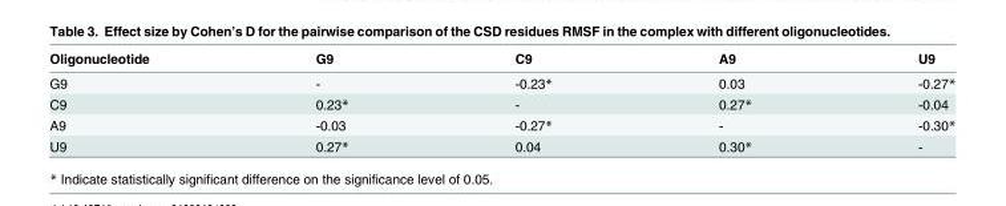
<table><thead><tr><td>Oligonucleotide</td><td>G9</td><td>C9</td><td>A9</td><td>U9</td></tr></thead><tbody><tr><td>G9</td><td>-</td><td>-0.23*</td><td>0.03</td><td>-0.27*</td></tr><tr><td>C9</td><td>0.23*</td><td>-</td><td>0.27*</td><td>-0.04</td></tr><tr><td>A9</td><td>-0.03</td><td>-0.27*</td><td>-</td><td>-0.30*</td></tr><tr><td>U9</td><td>0.27*</td><td>0.04</td><td>0.30*</td><td>-</td></tr></tbody></table>